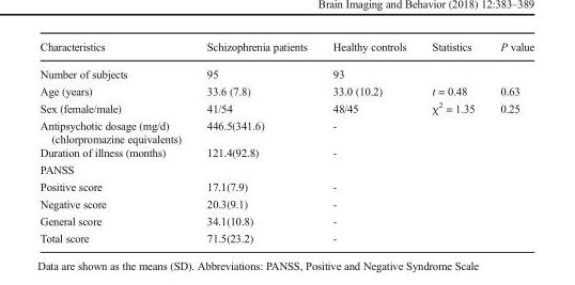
<table><thead><tr><td>Characteristics</td><td>Schizophrenia patients</td><td>Healthy controls</td><td>Statistics</td><td>P value</td></tr></thead><tbody><tr><td>Number of subjects</td><td>95</td><td>93</td><td></td><td></td></tr><tr><td>Age (years)</td><td>33.6 (7.8)</td><td>33.0 (10.2)</td><td>t = 0.48</td><td>0.63</td></tr><tr><td>Sex (female/male)</td><td>41/54</td><td>48/45</td><td>χ<sup>2</sup> = 1.35</td><td>0.25</td></tr><tr><td>Antipsychotic dosage (mg/d) (chlorpromazine equivalents)</td><td>446.5(341.6)</td><td>-</td><td></td><td></td></tr><tr><td>Duration of illness (months)</td><td>121.4(92.8)</td><td>-</td><td></td><td></td></tr><tr><td colspan="5">PANSS</td></tr><tr><td>Positive score</td><td>17.1(7.9)</td><td>-</td><td></td><td></td></tr><tr><td>Negative score</td><td>20.3(9.1)</td><td>-</td><td></td><td></td></tr><tr><td>General score</td><td>34.1(10.8)</td><td>-</td><td></td><td></td></tr><tr><td>Total score</td><td>71.5(23.2)</td><td>-</td><td></td><td></td></tr></tbody></table>